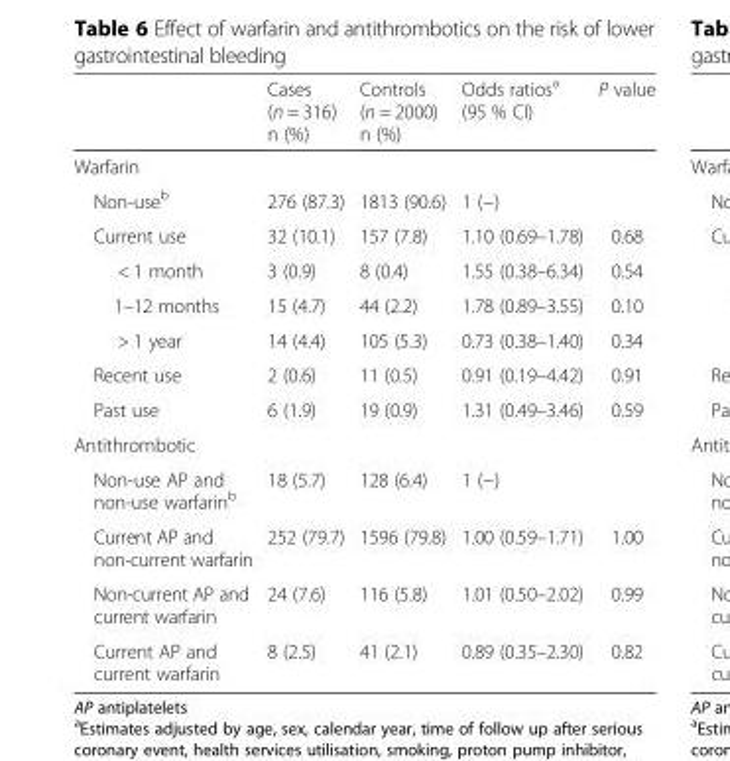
<table><thead><tr><td></td><td>Cases (n = 316) n (%)</td><td>Controls (n = 2000) n (%)</td><td>Odds ratios<sup>a</sup> (95 % CI)</td><td>P value</td></tr></thead><tbody><tr><td colspan="5">Warfarin</td></tr><tr><td>Non-use<sup>b</sup></td><td>276 (87.3)</td><td>1813 (90.6)</td><td>1 (−)</td><td></td></tr><tr><td>Current use</td><td>32 (10.1)</td><td>157 (7.8)</td><td>1.10 (0.69–1.78)</td><td>0.68</td></tr><tr><td>&lt; 1 month</td><td>3 (0.9)</td><td>8 (0.4)</td><td>1.55 (0.38–6.34)</td><td>0.54</td></tr><tr><td>1–12 months</td><td>15 (4.7)</td><td>44 (2.2)</td><td>1.78 (0.89–3.55)</td><td>0.10</td></tr><tr><td>&gt; 1 year</td><td>14 (4.4)</td><td>105 (5.3)</td><td>0.73 (0.38–1.40)</td><td>0.34</td></tr><tr><td>Recent use</td><td>2 (0.6)</td><td>11 (0.5)</td><td>0.91 (0.19–4.42)</td><td>0.91</td></tr><tr><td>Past use</td><td>6 (1.9)</td><td>19 (0.9)</td><td>1.31 (0.49–3.46)</td><td>0.59</td></tr><tr><td colspan="5">Antithrombotic</td></tr><tr><td>Non-use AP and non-use warfarin<sup>b</sup></td><td>18 (5.7)</td><td>128 (6.4)</td><td>1 (−)</td><td></td></tr><tr><td>Current AP and non-current warfarin</td><td>252 (79.7)</td><td>1596 (79.8)</td><td>1.00 (0.59–1.71)</td><td>1.00</td></tr><tr><td>Non-current AP and current warfarin</td><td>24 (7.6)</td><td>116 (5.8)</td><td>1.01 (0.50–2.02)</td><td>0.99</td></tr><tr><td>Current AP and current warfarin</td><td>8 (2.5)</td><td>41 (2.1)</td><td>0.89 (0.35–2.30)</td><td>0.82</td></tr></tbody></table>